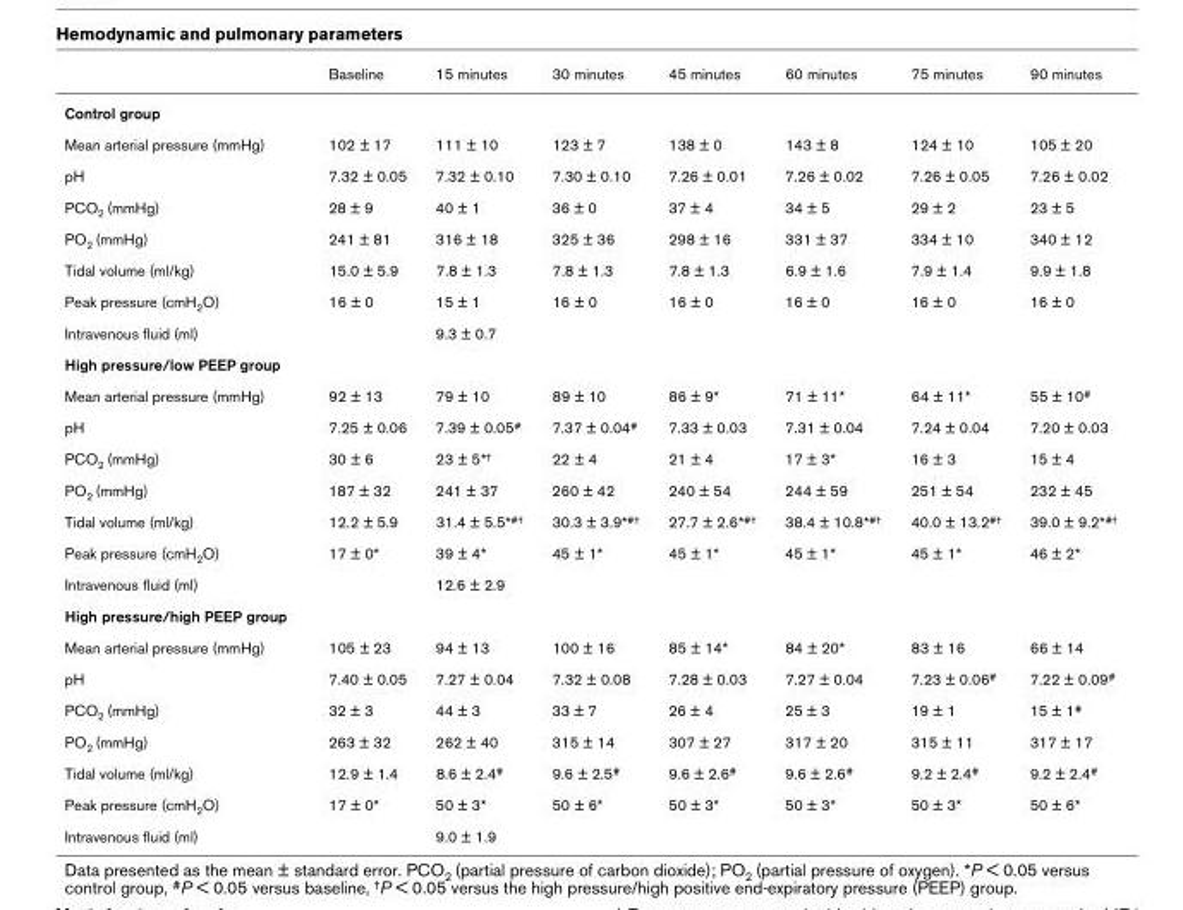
<table><thead><tr><td></td><td>Baseline</td><td>15 minutes</td><td>30 minutes</td><td>45 minutes</td><td>60 minutes</td><td>75 minutes</td><td>90 minutes</td></tr></thead><tbody><tr><td colspan="8">Control group</td></tr><tr><td>Mean arterial pressure (mmHg)</td><td>102 ± 17</td><td>111 ± 10</td><td>123 ± 7</td><td>138 ± 0</td><td>143 ± 8</td><td>124 ± 10</td><td>105 ± 20</td></tr><tr><td>pH</td><td>7.32 ± 0.05</td><td>7.32 ± 0.10</td><td>7.30 ± 0.10</td><td>7.26 ± 0.01</td><td>7.26 ± 0.02</td><td>7.26 ± 0.05</td><td>7.26 ± 0.02</td></tr><tr><td>PCO<sub>2</sub> (mmHg)</td><td>28 ± 9</td><td>40 ± 1</td><td>36 ± 0</td><td>37 ± 4</td><td>34 ± 5</td><td>29 ± 2</td><td>23 ± 5</td></tr><tr><td>PO<sub>2</sub> (mmHg)</td><td>241 ± 81</td><td>316 ± 18</td><td>325 ± 36</td><td>298 ± 16</td><td>331 ± 37</td><td>334 ± 10</td><td>340 ± 12</td></tr><tr><td>Tidal volume (ml/kg)</td><td>15.0 ± 5.9</td><td>7.8 ± 1.3</td><td>7.8 ± 1.3</td><td>7.8 ± 1.3</td><td>6.9 ± 1.6</td><td>7.9 ± 1.4</td><td>9.9 ± 1.8</td></tr><tr><td>Peak pressure (cmH<sub>2</sub>O)</td><td>16 ± 0</td><td>15 ± 1</td><td>16 ± 0</td><td>16 ± 0</td><td>16 ± 0</td><td>16 ± 0</td><td>16 ± 0</td></tr><tr><td>Intravenous fluid (ml)</td><td></td><td>9.3 ± 0.7</td><td></td><td></td><td></td><td></td><td></td></tr><tr><td colspan="8">High pressure/low PEEP group</td></tr><tr><td>Mean arterial pressure (mmHg)</td><td>92 ± 13</td><td>79 ± 10</td><td>89 ± 10</td><td>86 ± 9*</td><td>71 ± 11*</td><td>64 ± 11*</td><td>55 ± 10<sup>#</sup></td></tr><tr><td>pH</td><td>7.25 ± 0.06</td><td>7.39 ± 0.05<sup>#</sup></td><td>7.37 ± 0.04<sup>#</sup></td><td>7.33 ± 0.03</td><td>7.31 ± 0.04</td><td>7.24 ± 0.04</td><td>7.20 ± 0.03</td></tr><tr><td>PCO<sub>2</sub> (mmHg)</td><td>30 ± 6</td><td>23 ± 5*<sup>†</sup></td><td>22 ± 4</td><td>21 ± 4</td><td>17 ± 3*</td><td>16 ± 3</td><td>15 ± 4</td></tr><tr><td>PO<sub>2</sub> (mmHg)</td><td>187 ± 32</td><td>241 ± 37</td><td>260 ± 42</td><td>240 ± 54</td><td>244 ± 59</td><td>251 ± 54</td><td>232 ± 45</td></tr><tr><td>Tidal volume (ml/kg)</td><td>12.2 ± 5.9</td><td>31.4 ± 5.5*<sup>#†</sup></td><td>30.3 ± 3.9*<sup>#†</sup></td><td>27.7 ± 2.6*<sup>#†</sup></td><td>38.4 ± 10.8*<sup>#†</sup></td><td>40.0 ± 13.2<sup>#†</sup></td><td>39.0 ± 9.2*<sup>#†</sup></td></tr><tr><td>Peak pressure (cmH<sub>2</sub>O)</td><td>17 ± 0*</td><td>39 ± 4*</td><td>45 ± 1*</td><td>45 ± 1*</td><td>45 ± 1*</td><td>45 ± 1*</td><td>46 ± 2*</td></tr><tr><td>Intravenous fluid (ml)</td><td></td><td>12.6 ± 2.9</td><td></td><td></td><td></td><td></td><td></td></tr><tr><td colspan="8">High pressure/high PEEP group</td></tr><tr><td>Mean arterial pressure (mmHg)</td><td>105 ± 23</td><td>94 ± 13</td><td>100 ± 16</td><td>85 ± 14*</td><td>84 ± 20*</td><td>83 ± 16</td><td>66 ± 14</td></tr><tr><td>pH</td><td>7.40 ± 0.05</td><td>7.27 ± 0.04</td><td>7.32 ± 0.08</td><td>7.28 ± 0.03</td><td>7.27 ± 0.04</td><td>7.23 ± 0.06<sup>#</sup></td><td>7.22 ± 0.09<sup>#</sup></td></tr><tr><td>PCO<sub>2</sub> (mmHg)</td><td>32 ± 3</td><td>44 ± 3</td><td>33 ± 7</td><td>26 ± 4</td><td>25 ± 3</td><td>19 ± 1</td><td>15 ± 1<sup>#</sup></td></tr><tr><td>PO<sub>2</sub> (mmHg)</td><td>263 ± 32</td><td>262 ± 40</td><td>315 ± 14</td><td>307 ± 27</td><td>317 ± 20</td><td>315 ± 11</td><td>317 ± 17</td></tr><tr><td>Tidal volume (ml/kg)</td><td>12.9 ± 1.4</td><td>8.6 ± 2.4<sup>#</sup></td><td>9.6 ± 2.5<sup>#</sup></td><td>9.6 ± 2.6<sup>#</sup></td><td>9.6 ± 2.6<sup>#</sup></td><td>9.2 ± 2.4<sup>#</sup></td><td>9.2 ± 2.4<sup>#</sup></td></tr><tr><td>Peak pressure (cmH<sub>2</sub>O)</td><td>17 ± 0*</td><td>50 ± 3*</td><td>50 ± 6*</td><td>50 ± 3*</td><td>50 ± 3*</td><td>50 ± 3*</td><td>50 ± 6*</td></tr><tr><td>Intravenous fluid (ml)</td><td></td><td>9.0 ± 1.9</td><td></td><td></td><td></td><td></td><td></td></tr></tbody></table>